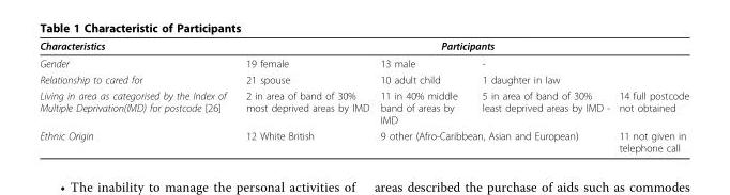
<table><thead><tr><td rowspan="4">Characteristics Gender Relationship to cared for Living in area as categorised by the Index of Multiple Deprivation(IMD) for postcode [26]</td><td colspan="4">Participants</td></tr><tr><td rowspan="3">19 female 21 spouse 2 in area of band of 30% most deprived areas by IMD</td><td rowspan="3">13 male 10 adult child 11 in 40% middle band of areas by IMD</td><td rowspan="2" colspan="2">- 1 daughter in law</td></tr><tr></tr><tr><td>5 in area of band of 30% least deprived areas by IMD -</td><td>14 full postcode not obtained</td></tr></thead><tbody><tr><td>Ethnic Origin</td><td>12 White British</td><td colspan="2">9 other (Afro-Caribbean, Asian and European)</td><td>11 not given in telephone call</td></tr></tbody></table>